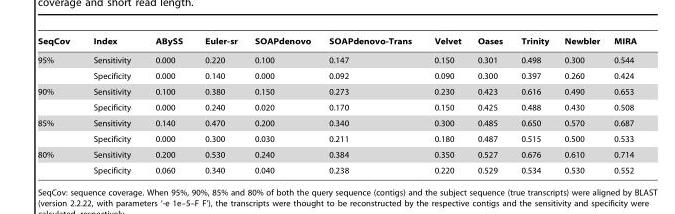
<table><thead><tr><td>SeqCov</td><td>Index</td><td>ABySS</td><td>Euler-sr</td><td>SOAPdenovo</td><td>SOAPdenovo-Trans</td><td>Velvet</td><td>Oases</td><td>Trinity</td><td>Newbler</td><td>MIRA</td></tr></thead><tbody><tr><td rowspan="2">95%</td><td>Sensitivity</td><td>0.000</td><td>0.220</td><td>0.100</td><td>0.147</td><td>0.150</td><td>0.301</td><td>0.498</td><td>0.300</td><td>0.544</td></tr><tr><td>Specificity</td><td>0.000</td><td>0.140</td><td>0.000</td><td>0.092</td><td>0.090</td><td>0.300</td><td>0.397</td><td>0.260</td><td>0.424</td></tr><tr><td rowspan="2">90%</td><td>Sensitivity</td><td>0.100</td><td>0.380</td><td>0.150</td><td>0.273</td><td>0.230</td><td>0.423</td><td>0.616</td><td>0.490</td><td>0.653</td></tr><tr><td>Specificity</td><td>0.000</td><td>0.240</td><td>0.020</td><td>0.170</td><td>0.150</td><td>0.425</td><td>0.488</td><td>0.430</td><td>0.508</td></tr><tr><td rowspan="2">85%</td><td>Sensitivity</td><td>0.140</td><td>0.470</td><td>0.200</td><td>0.340</td><td>0.300</td><td>0.485</td><td>0.650</td><td>0.570</td><td>0.687</td></tr><tr><td>Specificity</td><td>0.000</td><td>0.300</td><td>0.030</td><td>0.211</td><td>0.180</td><td>0.487</td><td>0.515</td><td>0.500</td><td>0.533</td></tr><tr><td rowspan="2">80%</td><td>Sensitivity</td><td>0.200</td><td>0.530</td><td>0.240</td><td>0.384</td><td>0.350</td><td>0.527</td><td>0.676</td><td>0.610</td><td>0.714</td></tr><tr><td>Specificity</td><td>0.060</td><td>0.340</td><td>0.040</td><td>0.238</td><td>0.220</td><td>0.529</td><td>0.534</td><td>0.530</td><td>0.552</td></tr></tbody></table>